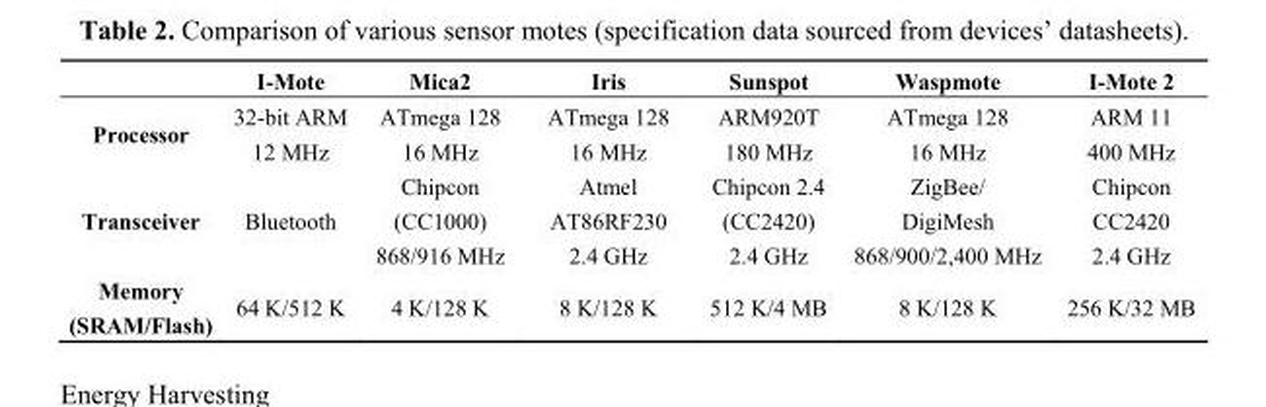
<table><thead><tr><td></td><td>I-Mote</td><td>Mica2</td><td>Iris</td><td>Sunspot</td><td>Waspmote</td><td>I-Mote 2</td></tr></thead><tbody><tr><td>Processor</td><td>32-bit ARM 12 MHz</td><td>ATmega 128 16 MHz</td><td>ATmega 128 16 MHz</td><td>ARM920T 180 MHz</td><td>ATmega 128 16 MHz</td><td>ARM 11 400 MHz</td></tr><tr><td>Transceiver</td><td>Bluetooth</td><td>Chipcon (CC1000) 868/916 MHz</td><td>Atmel AT86RF230 2.4 GHz</td><td>Chipcon 2.4 (CC2420) 2.4 GHz</td><td>ZigBee/ DigiMesh 868/900/2,400 MHz</td><td>Chipcon CC2420 2.4 GHz</td></tr><tr><td>Memory (SRAM/Flash)</td><td>64 K/512 K</td><td>4 K/128 K</td><td>8 K/128 K</td><td>512 K/4 MB</td><td>8 K/128 K</td><td>256 K/32 MB</td></tr></tbody></table>